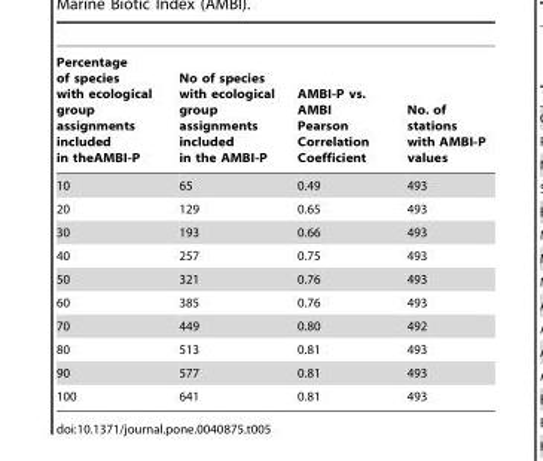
<table><thead><tr><td>Percentage of species with ecological group assignments included in theAMBI-P</td><td>No of species with ecological group assignments included in the AMBI-P</td><td>AMBI-P vs. AMBI Pearson Correlation Coefficient</td><td>No. of stations with AMBI-P values</td></tr></thead><tbody><tr><td>10</td><td>65</td><td>0.49</td><td>493</td></tr><tr><td>20</td><td>129</td><td>0.65</td><td>493</td></tr><tr><td>30</td><td>193</td><td>0.66</td><td>493</td></tr><tr><td>40</td><td>257</td><td>0.75</td><td>493</td></tr><tr><td>50</td><td>321</td><td>0.76</td><td>493</td></tr><tr><td>60</td><td>385</td><td>0.76</td><td>493</td></tr><tr><td>70</td><td>449</td><td>0.80</td><td>492</td></tr><tr><td>80</td><td>513</td><td>0.81</td><td>493</td></tr><tr><td>90</td><td>577</td><td>0.81</td><td>493</td></tr><tr><td>100</td><td>641</td><td>0.81</td><td>493</td></tr></tbody></table>